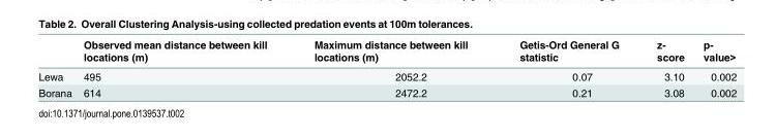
<table><thead><tr><td></td><td>Observed mean distance between kill locations (m)</td><td>Maximum distance between kill locations (m)</td><td>Getis-Ord General G statistic</td><td>z- score</td><td>p- value&gt;</td></tr></thead><tbody><tr><td>Lewa</td><td>495</td><td>2052.2</td><td>0.07</td><td>3.10</td><td>0.002</td></tr><tr><td>Borana</td><td>614</td><td>2472.2</td><td>0.21</td><td>3.08</td><td>0.002</td></tr></tbody></table>